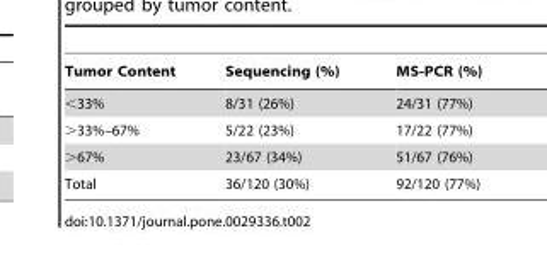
<table><thead><tr><td>Tumor Content</td><td>Sequencing (%)</td><td>MS-PCR (%)</td></tr></thead><tbody><tr><td>&lt;33%</td><td>8/31 (26%)</td><td>24/31 (77%)</td></tr><tr><td>&gt;33%–67%</td><td>5/22 (23%)</td><td>17/22 (77%)</td></tr><tr><td>&gt;67%</td><td>23/67 (34%)</td><td>51/67 (76%)</td></tr><tr><td>Total</td><td>36/120 (30%)</td><td>92/120 (77%)</td></tr></tbody></table>